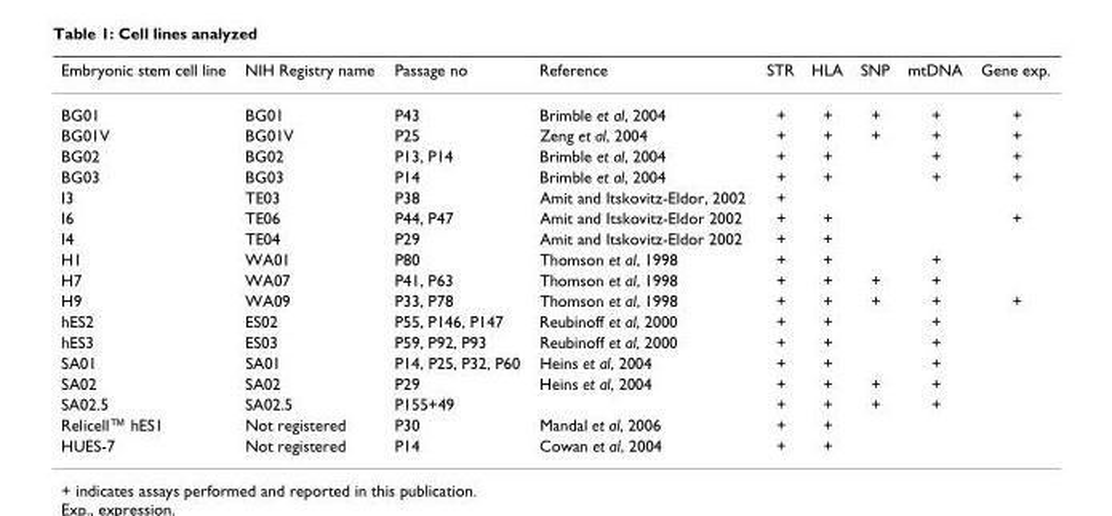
<table><thead><tr><td>Embryonic stem cell line</td><td>NIH Registry name</td><td>Passage no</td><td>Reference</td><td>STR</td><td>HLA</td><td>SNP</td><td>mtDNA</td><td>Gene exp.</td></tr></thead><tbody><tr><td>BG01</td><td>BG01</td><td>P43</td><td>Brimble et al, 2004</td><td>+</td><td>+</td><td>+</td><td>+</td><td>+</td></tr><tr><td>BG01V</td><td>BG01V</td><td>P25</td><td>Zeng et al, 2004</td><td>+</td><td>+</td><td>+</td><td>+</td><td>+</td></tr><tr><td>BG02</td><td>BG02</td><td>P13, P14</td><td>Brimble et al, 2004</td><td>+</td><td>+</td><td></td><td>+</td><td>+</td></tr><tr><td>BG03</td><td>BG03</td><td>P14</td><td>Brimble et al, 2004</td><td>+</td><td>+</td><td></td><td>+</td><td>+</td></tr><tr><td>I3</td><td>TE03</td><td>P38</td><td>Amit and Itskovitz-Eldor, 2002</td><td>+</td><td></td><td></td><td></td><td></td></tr><tr><td>I6</td><td>TE06</td><td>P44, P47</td><td>Amit and Itskovitz-Eldor 2002</td><td>+</td><td>+</td><td></td><td></td><td>+</td></tr><tr><td>I4</td><td>TE04</td><td>P29</td><td>Amit and Itskovitz-Eldor 2002</td><td>+</td><td>+</td><td></td><td></td><td></td></tr><tr><td>H1</td><td>WA01</td><td>P80</td><td>Thomson et al, 1998</td><td>+</td><td>+</td><td></td><td>+</td><td></td></tr><tr><td>H7</td><td>WA07</td><td>P41, P63</td><td>Thomson et al, 1998</td><td>+</td><td>+</td><td>+</td><td>+</td><td></td></tr><tr><td>H9</td><td>WA09</td><td>P33, P78</td><td>Thomson et al, 1998</td><td>+</td><td>+</td><td>+</td><td>+</td><td>+</td></tr><tr><td>hES2</td><td>ES02</td><td>P55, P146, P147</td><td>Reubinoff et al, 2000</td><td>+</td><td>+</td><td></td><td>+</td><td></td></tr><tr><td>hES3</td><td>ES03</td><td>P59, P92, P93</td><td>Reubinoff et al, 2000</td><td>+</td><td>+</td><td></td><td>+</td><td></td></tr><tr><td>SA01</td><td>SA01</td><td>P14, P25, P32, P60</td><td>Heins et al, 2004</td><td>+</td><td>+</td><td></td><td>+</td><td></td></tr><tr><td>SA02</td><td>SA02</td><td>P29</td><td>Heins et al, 2004</td><td>+</td><td>+</td><td>+</td><td>+</td><td></td></tr><tr><td>SA02.5</td><td>SA02.5</td><td>P155+49</td><td></td><td>+</td><td>+</td><td>+</td><td>+</td><td></td></tr><tr><td>Relicell™ hES1</td><td>Not registered</td><td>P30</td><td>Mandal et al, 2006</td><td>+</td><td>+</td><td></td><td></td><td></td></tr><tr><td>HUES-7</td><td>Not registered</td><td>P14</td><td>Cowan et al, 2004</td><td>+</td><td>+</td><td></td><td></td><td></td></tr></tbody></table>